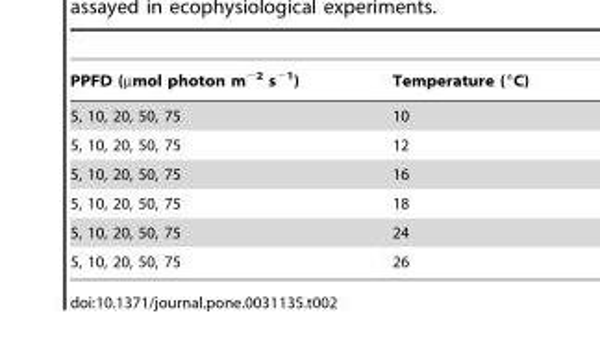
<table><thead><tr><td>PPFD (µmol photon m<sup>−2</sup> s<sup>−1</sup>)</td><td>Temperature (°C)</td></tr></thead><tbody><tr><td>5, 10, 20, 50, 75</td><td>10</td></tr><tr><td>5, 10, 20, 50, 75</td><td>12</td></tr><tr><td>5, 10, 20, 50, 75</td><td>16</td></tr><tr><td>5, 10, 20, 50, 75</td><td>18</td></tr><tr><td>5, 10, 20, 50, 75</td><td>24</td></tr><tr><td>5, 10, 20, 50, 75</td><td>26</td></tr></tbody></table>